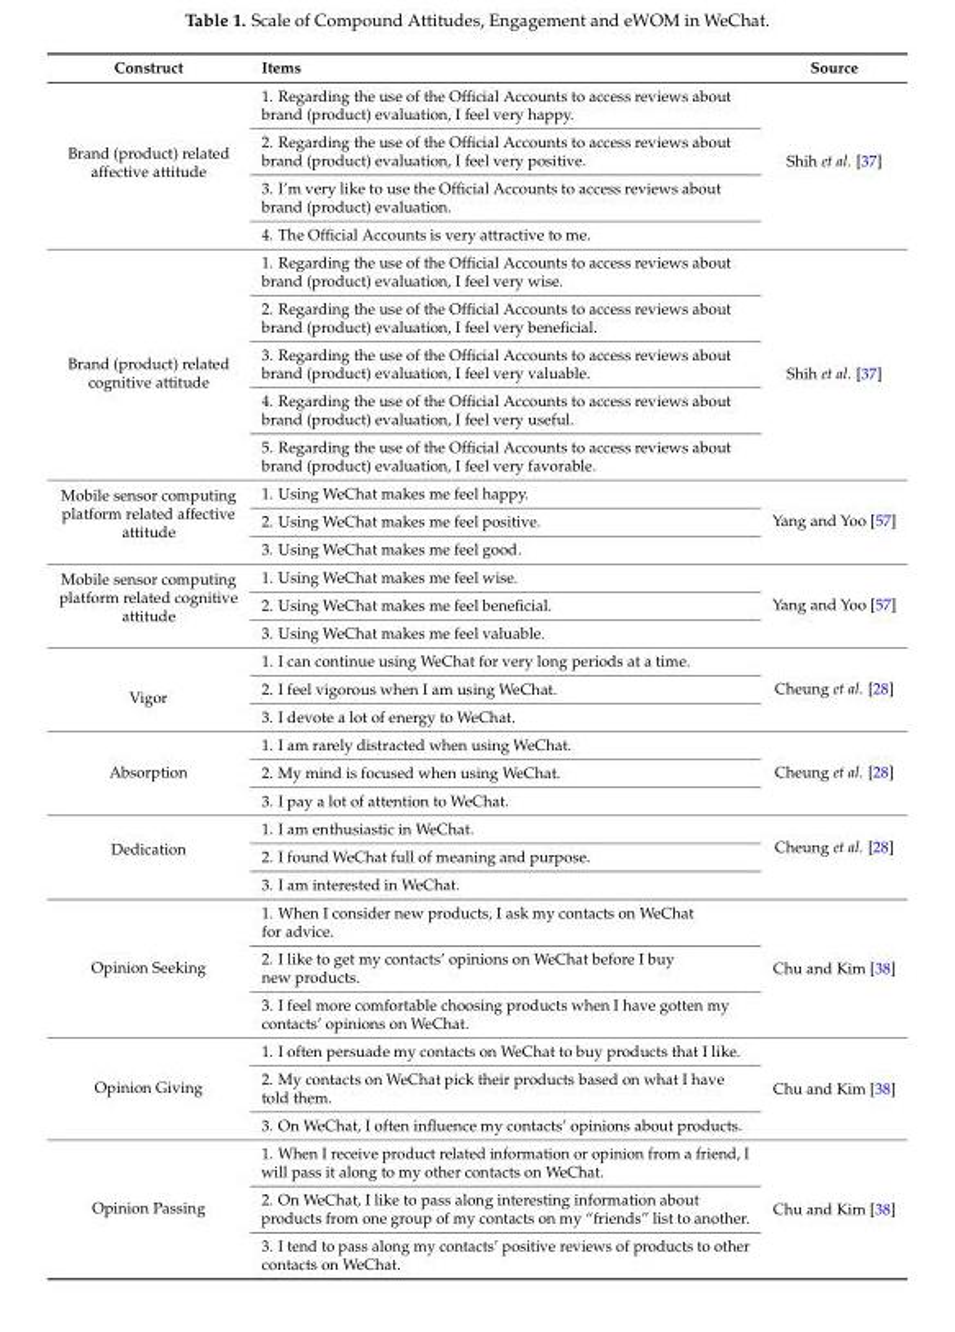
<table><thead><tr><td>Construct</td><td>Items</td><td>Source</td></tr></thead><tbody><tr><td rowspan="4">Brand (product) related affective attitude</td><td>1. Regarding the use of the Official Accounts to access reviews about brand (product) evaluation, I feel very happy.</td><td rowspan="4">Shih et al. [37]</td></tr><tr><td>2. Regarding the use of the Official Accounts to access reviews about brand (product) evaluation, I feel very positive.</td></tr><tr><td>3. I’m very like to use the Official Accounts to access reviews about brand (product) evaluation.</td></tr><tr><td>4. The Official Accounts is very attractive to me.</td></tr><tr><td rowspan="5">Brand (product) related cognitive attitude</td><td>1. Regarding the use of the Official Accounts to access reviews about brand (product) evaluation, I feel very wise.</td><td rowspan="5">Shih et al. [37]</td></tr><tr><td>2. Regarding the use of the Official Accounts to access reviews about brand (product) evaluation, I feel very beneficial.</td></tr><tr><td>3. Regarding the use of the Official Accounts to access reviews about brand (product) evaluation, I feel very valuable.</td></tr><tr><td>4. Regarding the use of the Official Accounts to access reviews about brand (product) evaluation, I feel very useful.</td></tr><tr><td>5. Regarding the use of the Official Accounts to access reviews about brand (product) evaluation, I feel very favorable.</td></tr><tr><td rowspan="3">Mobile sensor computing platform related affective attitude</td><td>1. Using WeChat makes me feel happy.</td><td rowspan="3">Yang and Yoo [57]</td></tr><tr><td>2. Using WeChat makes me feel positive.</td></tr><tr><td>3. Using WeChat makes me feel good.</td></tr><tr><td rowspan="3">Mobile sensor computing platform related cognitive attitude</td><td>1. Using WeChat makes me feel wise.</td><td rowspan="3">Yang and Yoo [57]</td></tr><tr><td>2. Using WeChat makes me feel beneficial.</td></tr><tr><td>3. Using WeChat makes me feel valuable.</td></tr><tr><td rowspan="3">Vigor</td><td>1. I can continue using WeChat for very long periods at a time.</td><td rowspan="3">Cheung et al. [28]</td></tr><tr><td>2. I feel vigorous when I am using WeChat.</td></tr><tr><td>3. I devote a lot of energy to WeChat.</td></tr><tr><td rowspan="3">Absorption</td><td>1. I am rarely distracted when using WeChat.</td><td rowspan="3">Cheung et al. [28]</td></tr><tr><td>2. My mind is focused when using WeChat.</td></tr><tr><td>3. I pay a lot of attention to WeChat.</td></tr><tr><td rowspan="3">Dedication</td><td>1. I am enthusiastic in WeChat.</td><td rowspan="3">Cheung et al. [28]</td></tr><tr><td>2. I found WeChat full of meaning and purpose.</td></tr><tr><td>3. I am interested in WeChat.</td></tr><tr><td rowspan="3">Opinion Seeking</td><td>1. When I consider new products, I ask my contacts on WeChat for advice.</td><td rowspan="3">Chu and Kim [38]</td></tr><tr><td>2. I like to get my contacts’ opinions on WeChat before I buy new products.</td></tr><tr><td>3. I feel more comfortable choosing products when I have gotten my contacts’ opinions on WeChat.</td></tr><tr><td rowspan="3">Opinion Giving</td><td>1. I often persuade my contacts on WeChat to buy products that I like.</td><td rowspan="3">Chu and Kim [38]</td></tr><tr><td>2. My contacts on WeChat pick their products based on what I have told them.</td></tr><tr><td>3. On WeChat, I often influence my contacts’ opinions about products.</td></tr><tr><td rowspan="3">Opinion Passing</td><td>1. When I receive product related information or opinion from a friend, I will pass it along to my other contacts on WeChat.</td><td rowspan="3">Chu and Kim [38]</td></tr><tr><td>2. On WeChat, I like to pass along interesting information about products from one group of my contacts on my “friends” list to another.</td></tr><tr><td>3. I tend to pass along my contacts’ positive reviews of products to other contacts on WeChat.</td></tr></tbody></table>